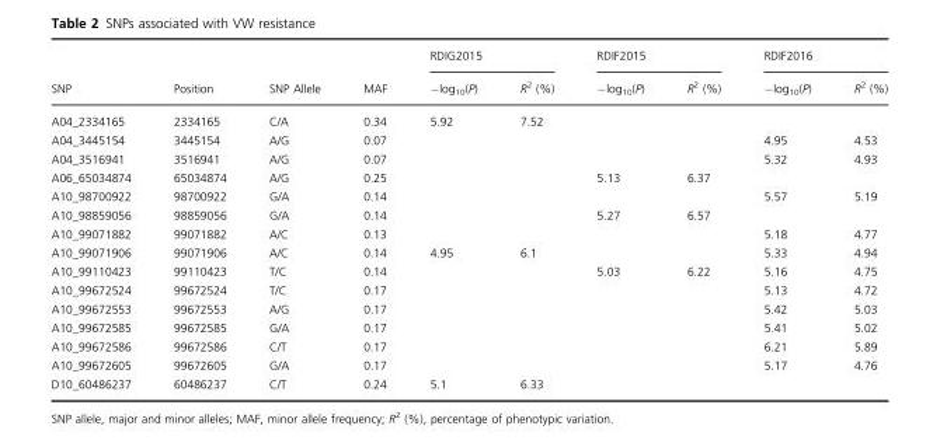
<table><thead><tr><td rowspan="2">SNP</td><td rowspan="2">Position</td><td rowspan="2">SNP Allele</td><td rowspan="2">MAF</td><td colspan="2">RDIG2015</td><td colspan="2">RDIF2015</td><td colspan="2">RDIF2016</td></tr><tr><td>−log<sub>10</sub>(P)</td><td>R<sup>2</sup> (%)</td><td>−log<sub>10</sub>(P)</td><td>R<sup>2</sup> (%)</td><td>−log<sub>10</sub>(P)</td><td>R<sup>2</sup> (%)</td></tr></thead><tbody><tr><td>A04_2334165</td><td>2334165</td><td>C/A</td><td>0.34</td><td>5.92</td><td>7.52</td><td></td><td></td><td></td><td></td></tr><tr><td>A04_3445154</td><td>3445154</td><td>A/G</td><td>0.07</td><td></td><td></td><td></td><td></td><td>4.95</td><td>4.53</td></tr><tr><td>A04_3516941</td><td>3516941</td><td>A/G</td><td>0.07</td><td></td><td></td><td></td><td></td><td>5.32</td><td>4.93</td></tr><tr><td>A06_65034874</td><td>65034874</td><td>A/G</td><td>0.25</td><td></td><td></td><td>5.13</td><td>6.37</td><td></td><td></td></tr><tr><td>A10_98700922</td><td>98700922</td><td>G/A</td><td>0.14</td><td></td><td></td><td></td><td></td><td>5.57</td><td>5.19</td></tr><tr><td>A10_98859056</td><td>98859056</td><td>G/A</td><td>0.14</td><td></td><td></td><td>5.27</td><td>6.57</td><td></td><td></td></tr><tr><td>A10_99071882</td><td>99071882</td><td>A/C</td><td>0.13</td><td></td><td></td><td></td><td></td><td>5.18</td><td>4.77</td></tr><tr><td>A10_99071906</td><td>99071906</td><td>A/C</td><td>0.14</td><td>4.95</td><td>6.1</td><td></td><td></td><td>5.33</td><td>4.94</td></tr><tr><td>A10_99110423</td><td>99110423</td><td>T/C</td><td>0.14</td><td></td><td></td><td>5.03</td><td>6.22</td><td>5.16</td><td>4.75</td></tr><tr><td>A10_99672524</td><td>99672524</td><td>T/C</td><td>0.17</td><td></td><td></td><td></td><td></td><td>5.13</td><td>4.72</td></tr><tr><td>A10_99672553</td><td>99672553</td><td>A/G</td><td>0.17</td><td></td><td></td><td></td><td></td><td>5.42</td><td>5.03</td></tr><tr><td>A10_99672585</td><td>99672585</td><td>G/A</td><td>0.17</td><td></td><td></td><td></td><td></td><td>5.41</td><td>5.02</td></tr><tr><td>A10_99672586</td><td>99672586</td><td>C/T</td><td>0.17</td><td></td><td></td><td></td><td></td><td>6.21</td><td>5.89</td></tr><tr><td>A10_99672605</td><td>99672605</td><td>G/A</td><td>0.17</td><td></td><td></td><td></td><td></td><td>5.17</td><td>4.76</td></tr><tr><td>D10_60486237</td><td>60486237</td><td>C/T</td><td>0.24</td><td>5.1</td><td>6.33</td><td></td><td></td><td></td><td></td></tr></tbody></table>